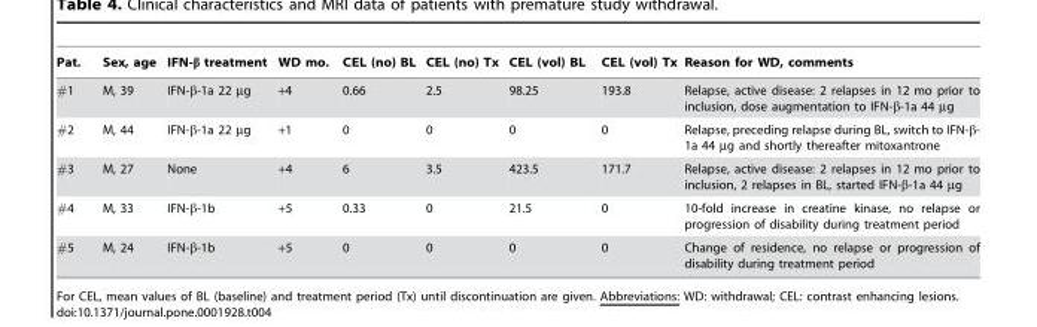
<table><thead><tr><td>Pat.</td><td>Sex, age</td><td>IFN-β treatment</td><td>WD mo.</td><td>CEL (no) BL</td><td>CEL (no) Tx</td><td>CEL (vol) BL</td><td>CEL (vol) Tx</td><td>Reason for WD, comments</td></tr></thead><tbody><tr><td>#1</td><td>M, 39</td><td>IFN-β-1a 22 µg</td><td>+4</td><td>0.66</td><td>2.5</td><td>98.25</td><td>193.8</td><td>Relapse, active disease: 2 relapses in 12 mo prior to inclusion, dose augmentation to IFN-β-1a 44 µg</td></tr><tr><td>#2</td><td>M, 44</td><td>IFN-β-1a 22 µg</td><td>+1</td><td>0</td><td>0</td><td>0</td><td>0</td><td>Relapse, preceding relapse during BL, switch to IFN-β- 1a 44 µg and shortly thereafter mitoxantrone</td></tr><tr><td>#3</td><td>M, 27</td><td>None</td><td>+4</td><td>6</td><td>3.5</td><td>423.5</td><td>171.7</td><td>Relapse, active disease: 2 relapses in 12 mo prior to inclusion, 2 relapses in BL, started IFN-β-1a 44 µg</td></tr><tr><td>#4</td><td>M, 33</td><td>IFN-β-1b</td><td>+5</td><td>0.33</td><td>0</td><td>21.5</td><td>0</td><td>10-fold increase in creatine kinase, no relapse or progression of disability during treatment period</td></tr><tr><td>#5</td><td>M, 24</td><td>IFN-β-1b</td><td>+5</td><td>0</td><td>0</td><td>0</td><td>0</td><td>Change of residence, no relapse or progression of disability during treatment period</td></tr></tbody></table>